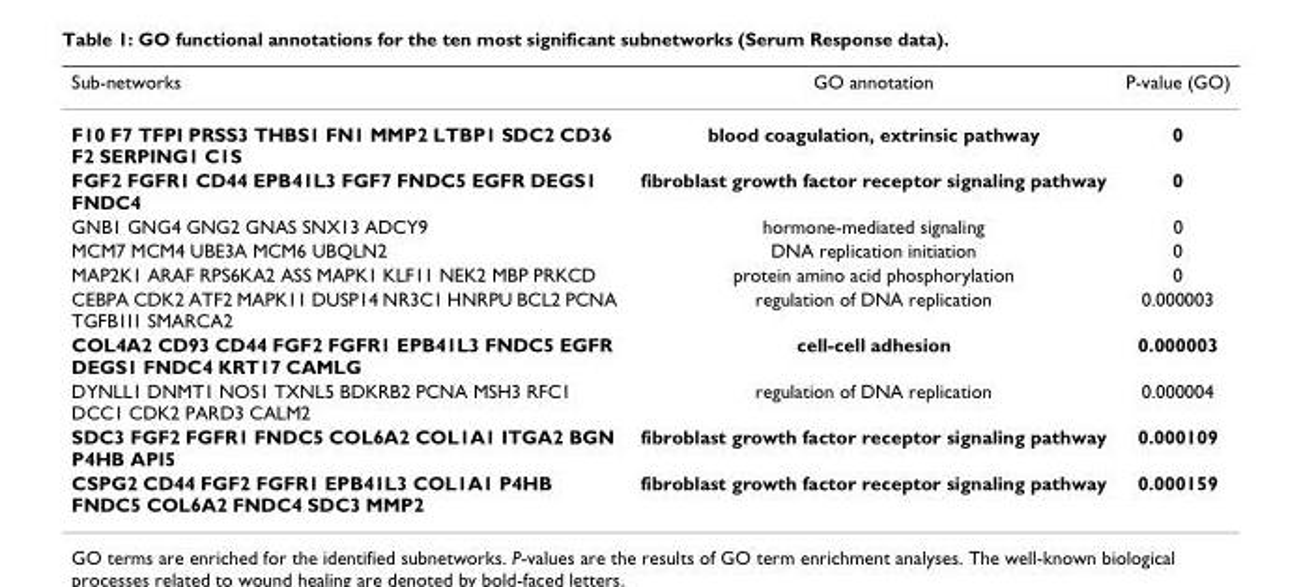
<table><thead><tr><td>Sub-networks</td><td>GO annotation</td><td>P-value (GO)</td></tr></thead><tbody><tr><td>F10 F7 TFPI PRSS3 THBS1 FN1 MMP2 LTBP1 SDC2 CD36 F2 SERPING1 C1S</td><td>blood coagulation, extrinsic pathway</td><td>0</td></tr><tr><td>FGF2 FGFR1 CD44 EPB41L3 FGF7 FNDC5 EGFR DEGS1 FNDC4</td><td>fibroblast growth factor receptor signaling pathway</td><td>0</td></tr><tr><td>GNB1 GNG4 GNG2 GNAS SNX13 ADCY9</td><td>hormone-mediated signaling</td><td>0</td></tr><tr><td>MCM7 MCM4 UBE3A MCM6 UBQLN2</td><td>DNA replication initiation</td><td>0</td></tr><tr><td>MAP2K1 ARAF RPS6KA2 ASS MAPK1 KLF11 NEK2 MBP PRKCD</td><td>protein amino acid phosphorylation</td><td>0</td></tr><tr><td>CEBPA CDK2 ATF2 MAPK11 DUSP14 NR3C1 HNRPU BCL2 PCNA TGFB1I1 SMARCA2</td><td>regulation of DNA replication</td><td>0.000003</td></tr><tr><td>COL4A2 CD93 CD44 FGF2 FGFR1 EPB41L3 FNDC5 EGFR DEGS1 FNDC4 KRT17 CAMLG</td><td>cell-cell adhesion</td><td>0.000003</td></tr><tr><td>DYNLL1 DNMT1 NOS1 TXNL5 BDKRB2 PCNA MSH3 RFC1 DCC1 CDK2 PARD3 CALM2</td><td>regulation of DNA replication</td><td>0.000004</td></tr><tr><td>SDC3 FGF2 FGFR1 FNDC5 COL6A2 COL1A1 ITGA2 BGN P4HB API5</td><td>fibroblast growth factor receptor signaling pathway</td><td>0.000109</td></tr><tr><td>CSPG2 CD44 FGF2 FGFR1 EPB41L3 COL1A1 P4HB FNDC5 COL6A2 FNDC4 SDC3 MMP2</td><td>fibroblast growth factor receptor signaling pathway</td><td>0.000159</td></tr></tbody></table>